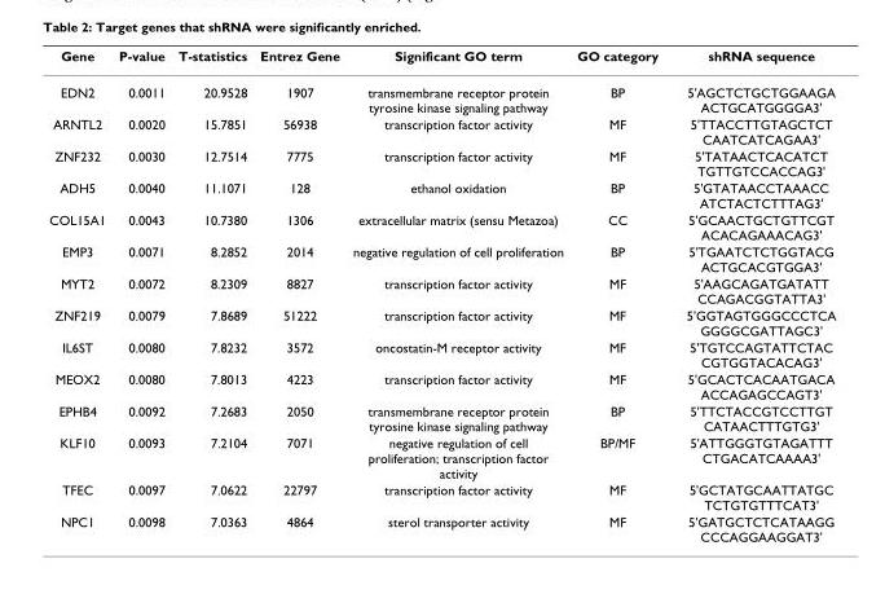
<table><thead><tr><td>Gene</td><td>P-value</td><td>T-statistics</td><td>Entrez Gene</td><td>Significant GO term</td><td>GO category</td><td>shRNA sequence</td></tr></thead><tbody><tr><td>EDN2</td><td>0.0011</td><td>20.9528</td><td>1907</td><td>transmembrane receptor protein tyrosine kinase signaling pathway</td><td>BP</td><td>5&#x27;AGCTCTGCTGGAAGA ACTGCATGGGGA3&#x27;</td></tr><tr><td>ARNTL2</td><td>0.0020</td><td>15.7851</td><td>56938</td><td>transcription factor activity</td><td>MF</td><td>5&#x27;TTACCTTGTAGCTCT CAATCATCAGAA3&#x27;</td></tr><tr><td>ZNF232</td><td>0.0030</td><td>12.7514</td><td>7775</td><td>transcription factor activity</td><td>MF</td><td>5&#x27;TATAACTCACATCT TGTTGTCCACCAG3&#x27;</td></tr><tr><td>ADH5</td><td>0.0040</td><td>11.1071</td><td>128</td><td>ethanol oxidation</td><td>BP</td><td>5&#x27;GTATAACCTAAACC ATCTACTCTTTAG3&#x27;</td></tr><tr><td>COL15A1</td><td>0.0043</td><td>10.7380</td><td>1306</td><td>extracellular matrix (sensu Metazoa)</td><td>CC</td><td>5&#x27;GCAACTGCTGTTCGT ACACAGAAACAG3&#x27;</td></tr><tr><td>EMP3</td><td>0.0071</td><td>8.2852</td><td>2014</td><td>negative regulation of cell proliferation</td><td>BP</td><td>5&#x27;TGAATCTCTGGTACG ACTGCACGTGGA3&#x27;</td></tr><tr><td>MYT2</td><td>0.0072</td><td>8.2309</td><td>8827</td><td>transcription factor activity</td><td>MF</td><td>5&#x27;AAGCAGATGATATT CCAGACGGTATTA3&#x27;</td></tr><tr><td>ZNF219</td><td>0.0079</td><td>7.8689</td><td>51222</td><td>transcription factor activity</td><td>MF</td><td>5&#x27;GGTAGTGGGCCCTCA GGGGCGATTAGC3&#x27;</td></tr><tr><td>IL6ST</td><td>0.0080</td><td>7.8232</td><td>3572</td><td>oncostatin-M receptor activity</td><td>MF</td><td>5&#x27;TGTCCAGTATTCTAC CGTGGTACACAG3&#x27;</td></tr><tr><td>MEOX2</td><td>0.0080</td><td>7.8013</td><td>4223</td><td>transcription factor activity</td><td>MF</td><td>5&#x27;GCACTCACAATGACA ACCAGAGCCAGT3&#x27;</td></tr><tr><td>EPHB4</td><td>0.0092</td><td>7.2683</td><td>2050</td><td>transmembrane receptor protein tyrosine kinase signaling pathway</td><td>BP</td><td>5&#x27;TTCTACCGTCCTTGT CATAACTTTGTG3&#x27;</td></tr><tr><td>KLF10</td><td>0.0093</td><td>7.2104</td><td>7071</td><td>negative regulation of cell proliferation; transcription factor activity</td><td>BP/MF</td><td>5&#x27;ATTGGGTGTAGATTT CTGACATCAAAA3&#x27;</td></tr><tr><td>TFEC</td><td>0.0097</td><td>7.0622</td><td>22797</td><td>transcription factor activity</td><td>MF</td><td>5&#x27;GCTATGCAATTATGC TCTGTGTTTCAT3&#x27;</td></tr><tr><td>NPC1</td><td>0.0098</td><td>7.0363</td><td>4864</td><td>sterol transporter activity</td><td>MF</td><td>5&#x27;GATGCTCTCATAAGG CCCAGGAAGGAT3&#x27;</td></tr></tbody></table>